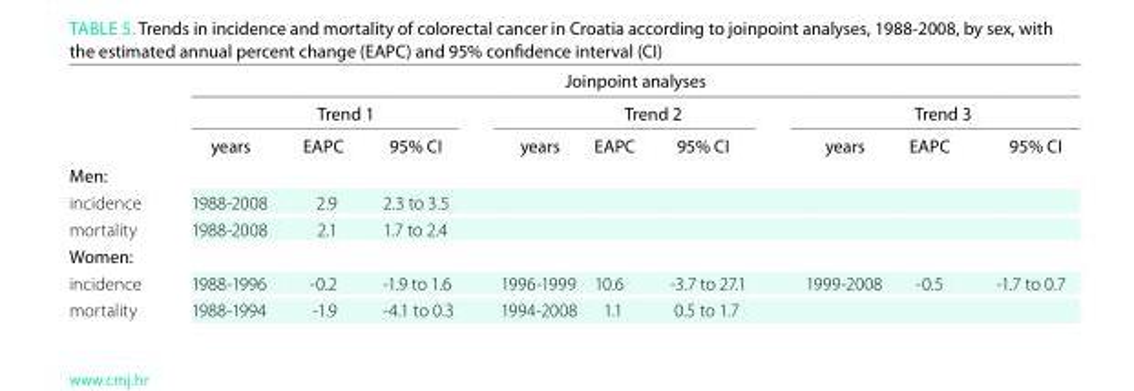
<table><thead><tr><td rowspan="3"></td><td colspan="9">Joinpoint analyses</td></tr><tr><td colspan="3">Trend 1</td><td colspan="3">Trend 2</td><td colspan="3">Trend 3</td></tr><tr><td>years</td><td>eAPC</td><td>95% CI</td><td>years</td><td>eAPC</td><td>95% CI</td><td>years</td><td>eAPC</td><td>95% CI</td></tr></thead><tbody><tr><td colspan="10">Men:</td></tr><tr><td>incidence</td><td>1988-2008</td><td>2.9</td><td>2.3 to 3.5</td><td rowspan="2" colspan="6"></td></tr><tr><td>mortality</td><td>1988-2008</td><td>2.1</td><td>1.7 to 2.4</td></tr><tr><td colspan="10">Women:</td></tr><tr><td>incidence</td><td>1988-1996</td><td>-0.2</td><td>-1.9 to 1.6</td><td>1996-1999</td><td>10.6</td><td>-3.7 to 27.1</td><td>1999-2008</td><td>-0.5</td><td>-1.7 to 0.7</td></tr><tr><td>mortality</td><td>1988-1994</td><td>-1.9</td><td>-4.1 to 0.3</td><td>1994-2008</td><td>1.1</td><td>0.5 to 1.7</td><td colspan="3"></td></tr></tbody></table>